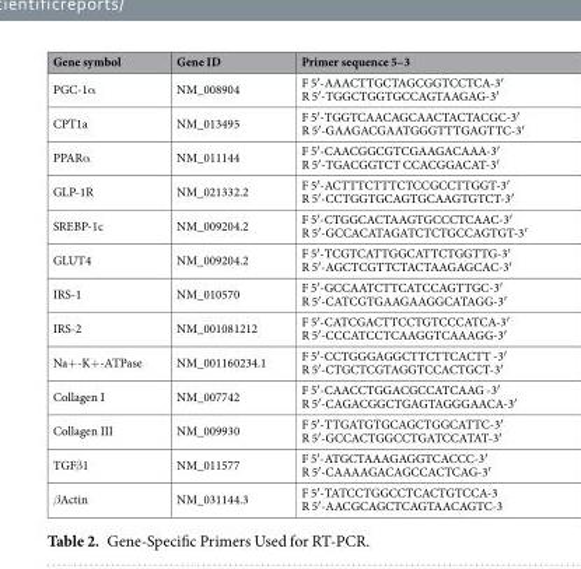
<table><thead><tr><td>Gene symbol</td><td>Gene ID</td><td>Primer sequence 5–3</td></tr></thead><tbody><tr><td>PGC-1α</td><td>NM_008904</td><td>F 5′-AAACTTGCTAGCGGTCCTCA-3′ R 5′-TGGCTGGTGCCAGTAAGAG-3′</td></tr><tr><td>CPT1a</td><td>NM_013495</td><td>F 5′-TGGTCAACAGCAACTACTACGC-3′ R 5′-GAAGACGAATGGGTTTGAGTTC-3′</td></tr><tr><td>PPARα</td><td>NM_011144</td><td>F 5′-CAACGGCGTCGAAGACAAA-3′ R 5′-TGACGGTCT CCACGGACAT-3′</td></tr><tr><td>GLP-1R</td><td>NM_021332.2</td><td>F 5′-ACTTTCTTTCTCCGCCTTGGT-3′ R 5′-CCTGGTGCAGTGCAAGTGTCT-3′</td></tr><tr><td>SREBP-1c</td><td>NM_009204.2</td><td>F 5′-CTGGCACTAAGTGCCCTCAAC-3′ R 5′-GCCACATAGATCTCTGCCAGTGT-3′</td></tr><tr><td>GLUT4</td><td>NM_009204.2</td><td>F 5′-TCGTCATTGGCATTCTGGTTG-3′ R 5′-AGCTCGTTCTACTAAGAGCAC-3′</td></tr><tr><td>IRS-1</td><td>NM_010570</td><td>F 5′-GCCAATCTTCATCCAGTTGC-3′ R 5′-CATCGTGAAGAAGGCATAGG-3′</td></tr><tr><td>IRS-2</td><td>NM_001081212</td><td>F 5′-CATCGACTTCCTGTCCCATCA-3′ R 5′-CCCATCCTCAAGGTCAAAGG-3′</td></tr><tr><td>Na+-K+-ATPase</td><td>NM_001160234.1</td><td>F 5′-CCTGGGAGGCTTCTTCACTT -3′ R 5′-CTGCTCGTAGGTCCACTGCT-3′</td></tr><tr><td>Collagen I</td><td>NM_007742</td><td>F 5′-CAACCTGGACGCCATCAAG -3′ R 5′-CAGACGGCTGAGTAGGGAACA-3′</td></tr><tr><td>Collagen III</td><td>NM_009930</td><td>F 5′-TTGATGTGCAGCTGGCATTC-3′ R 5′-GCCACTGGCCTGATCCATAT-3′</td></tr><tr><td>TGFβ1</td><td>NM_011577</td><td>F 5′-ATGCTAAAGAGGTCACCC-3′ R 5′-CAAAAGACAGCCACTCAG-3′</td></tr><tr><td>βActin</td><td>NM_031144.3</td><td>F 5′-TATCCTGGCCTCACTGTCCA-3 R 5′-AACGCAGCTCAGTAACAGTC-3</td></tr></tbody></table>